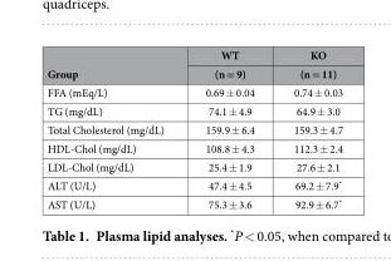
<table><thead><tr><td rowspan="2">Group</td><td rowspan="2">WT (n = 9)</td><td rowspan="2">KO (n = 11)</td></tr><tr></tr></thead><tbody><tr><td>FFA (mEq/L)</td><td>0.69 ± 0.04</td><td>0.74 ± 0.03</td></tr><tr><td>TG (mg/dL)</td><td>74.1 ± 4.9</td><td>64.9 ± 3.0</td></tr><tr><td>Total Cholesterol (mg/dL)</td><td>159.9 ± 6.4</td><td>159.3 ± 4.7</td></tr><tr><td>HDL-Chol (mg/dL)</td><td>108.8 ± 4.3</td><td>112.3 ± 2.4</td></tr><tr><td>LDL-Chol (mg/dL)</td><td>25.4 ± 1.9</td><td>27.6 ± 2.1</td></tr><tr><td>ALT (U/L)</td><td>47.4 ± 4.5</td><td>69.2 ± 7.9*</td></tr><tr><td>AST (U/L)</td><td>75.3 ± 3.6</td><td>92.9 ± 6.7*</td></tr></tbody></table>